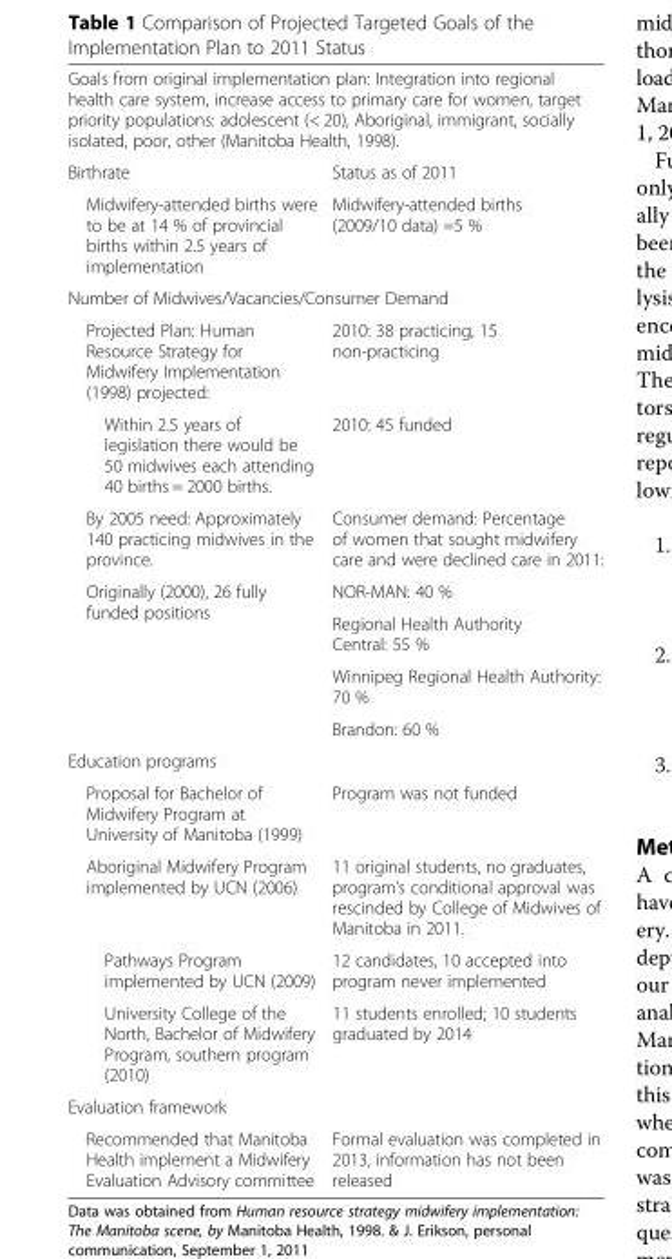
<table><tbody><tr><td colspan="2">Goals from original implementation plan: Integration into regional health care system, increase access to primary care for women, target priority populations: adolescent (&lt; 20), Aboriginal, immigrant, socially isolated, poor, other (Manitoba Health, 1998).</td></tr><tr><td>Birthrate</td><td>Status as of 2011</td></tr><tr><td>Midwifery-attended births were to be at 14 % of provincial births within 2.5 years of implementation</td><td>Midwifery-attended births (2009/10 data) =5 %</td></tr><tr><td colspan="2">Number of Midwives/Vacancies/Consumer Demand</td></tr><tr><td>Projected Plan: Human Resource Strategy for Midwifery Implementation (1998) projected:</td><td>2010: 38 practicing, 15 non-practicing</td></tr><tr><td>Within 2.5 years of legislation there would be 50 midwives each attending 40 births = 2000 births.</td><td>2010: 45 funded</td></tr><tr><td>By 2005 need: Approximately 140 practicing midwives in the province.</td><td>Consumer demand: Percentage of women that sought midwifery care and were declined care in 2011:</td></tr><tr><td rowspan="4">Originally (2000), 26 fully funded positions</td><td>NOR-MAN: 40 %</td></tr><tr><td>Regional Health Authority Central: 55 %</td></tr><tr><td>Winnipeg Regional Health Authority: 70 %</td></tr><tr><td>Brandon: 60 %</td></tr><tr><td colspan="2">Education programs</td></tr><tr><td>Proposal for Bachelor of Midwifery Program at University of Manitoba (1999)</td><td>Program was not funded</td></tr><tr><td>Aboriginal Midwifery Program implemented by UCN (2006)</td><td>11 original students, no graduates, program’s conditional approval was rescinded by College of Midwives of Manitoba in 2011.</td></tr><tr><td>Pathways Program implemented by UCN (2009)</td><td>12 candidates, 10 accepted into program never implemented</td></tr><tr><td>University College of the North, Bachelor of Midwifery Program, southern program (2010)</td><td>11 students enrolled; 10 students graduated by 2014</td></tr><tr><td colspan="2">Evaluation framework</td></tr><tr><td>Recommended that Manitoba Health implement a Midwifery Evaluation Advisory committee</td><td>Formal evaluation was completed in 2013, information has not been released</td></tr></tbody></table>